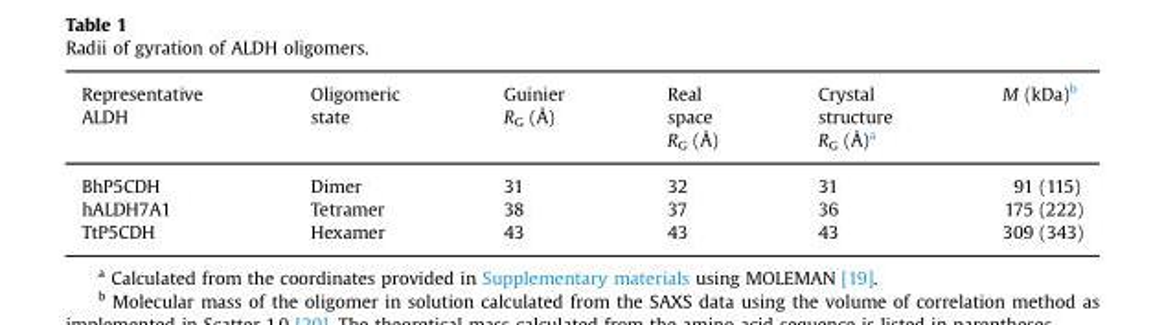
<table><thead><tr><td>Representative ALDH</td><td>Oligomeric state</td><td>Guinier R<sub>G</sub> (Å)</td><td>Real space R<sub>G</sub> (Å)</td><td>Crystal structure R<sub>G</sub> (Å)<sup>a</sup></td><td>M (kDa)<sup>b</sup></td></tr></thead><tbody><tr><td>BhP5CDH</td><td>Dimer</td><td>31</td><td>32</td><td>31</td><td>91 (115)</td></tr><tr><td>hALDH7A1</td><td>Tetramer</td><td>38</td><td>37</td><td>36</td><td>175 (222)</td></tr><tr><td>TtP5CDH</td><td>Hexamer</td><td>43</td><td>43</td><td>43</td><td>309 (343)</td></tr></tbody></table>